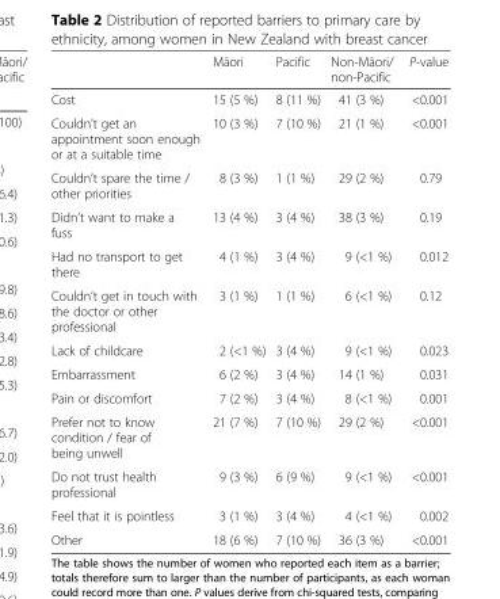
<table><thead><tr><td></td><td>Māori</td><td>Pacific</td><td>Non-Māori/ non-Pacific</td><td>P-value</td></tr></thead><tbody><tr><td>Cost</td><td>15 (5 %)</td><td>8 (11 %)</td><td>41 (3 %)</td><td>&lt;0.001</td></tr><tr><td>Couldn’t get an appointment soon enough or at a suitable time</td><td>10 (3 %)</td><td>7 (10 %)</td><td>21 (1 %)</td><td>&lt;0.001</td></tr><tr><td>Couldn’t spare the time / other priorities</td><td>8 (3 %)</td><td>1 (1 %)</td><td>29 (2 %)</td><td>0.79</td></tr><tr><td>Didn’t want to make a fuss</td><td>13 (4 %)</td><td>3 (4 %)</td><td>38 (3 %)</td><td>0.19</td></tr><tr><td>Had no transport to get there</td><td>4 (1 %)</td><td>3 (4 %)</td><td>9 (&lt;1 %)</td><td>0.012</td></tr><tr><td>Couldn’t get in touch with the doctor or other professional</td><td>3 (1 %)</td><td>1 (1 %)</td><td>6 (&lt;1 %)</td><td>0.12</td></tr><tr><td>Lack of childcare</td><td>2 (&lt;1 %)</td><td>3 (4 %)</td><td>9 (&lt;1 %)</td><td>0.023</td></tr><tr><td>Embarrassment</td><td>6 (2 %)</td><td>3 (4 %)</td><td>14 (1 %)</td><td>0.031</td></tr><tr><td>Pain or discomfort</td><td>7 (2 %)</td><td>3 (4 %)</td><td>8 (&lt;1 %)</td><td>0.001</td></tr><tr><td>Prefer not to know condition / fear of being unwell</td><td>21 (7 %)</td><td>7 (10 %)</td><td>29 (2 %)</td><td>&lt;0.001</td></tr><tr><td>Do not trust health professional</td><td>9 (3 %)</td><td>6 (9 %)</td><td>9 (&lt;1 %)</td><td>&lt;0.001</td></tr><tr><td>Feel that it is pointless</td><td>3 (1 %)</td><td>3 (4 %)</td><td>4 (&lt;1 %)</td><td>0.002</td></tr><tr><td>Other</td><td>18 (6 %)</td><td>7 (10 %)</td><td>36 (3 %)</td><td>&lt;0.001</td></tr></tbody></table>